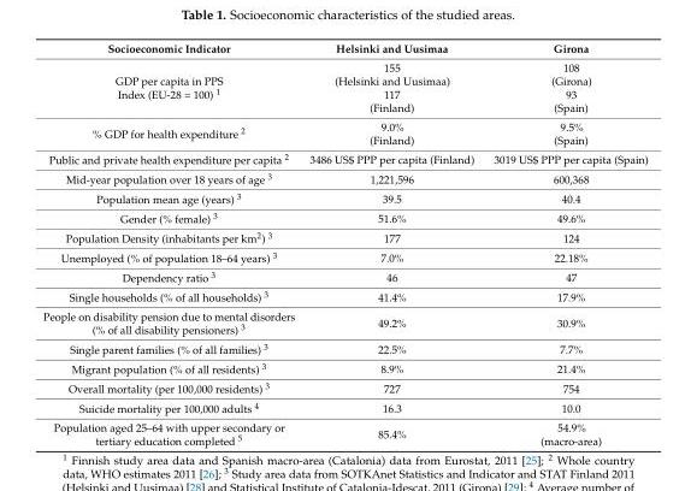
<table><thead><tr><td>Socioeconomic Indicator</td><td>Helsinki and Uusimaa</td><td>Girona</td></tr></thead><tbody><tr><td>GDP per capita in PPS Index (EU-28 = 100) <sup>1</sup></td><td>155 (Helsinki and Uusimaa) 117 (Finland)</td><td>108 (Girona) 93 (Spain)</td></tr><tr><td>% GDP for health expenditure <sup>2</sup></td><td>9.0% (Finland)</td><td>9.5% (Spain)</td></tr><tr><td>Public and private health expenditure per capita <sup>2</sup></td><td>3486 US$ PPP per capita (Finland)</td><td>3019 US$ PPP per capita (Spain)</td></tr><tr><td>Mid-year population over 18 years of age <sup>3</sup></td><td>1,221,596</td><td>600,368</td></tr><tr><td>Population mean age (years) <sup>3</sup></td><td>39.5</td><td>40.4</td></tr><tr><td>Gender (% female) <sup>3</sup></td><td>51.6%</td><td>49.6%</td></tr><tr><td>Population Density (inhabitants per km<sup>2</sup>) <sup>3</sup></td><td>177</td><td>124</td></tr><tr><td>Unemployed (% of population 18–64 years) <sup>3</sup></td><td>7.0%</td><td>22.18%</td></tr><tr><td>Dependency ratio <sup>3</sup></td><td>46</td><td>47</td></tr><tr><td>Single households (% of all households) <sup>3</sup></td><td>41.4%</td><td>17.9%</td></tr><tr><td>People on disability pension due to mental disorders (% of all disability pensioners) <sup>3</sup></td><td>49.2%</td><td>30.9%</td></tr><tr><td>Single parent families (% of all families) <sup>3</sup></td><td>22.5%</td><td>7.7%</td></tr><tr><td>Migrant population (% of all residents) <sup>3</sup></td><td>8.9%</td><td>21.4%</td></tr><tr><td>Overall mortality (per 100,000 residents) <sup>3</sup></td><td>727</td><td>754</td></tr><tr><td>Suicide mortality per 100,000 adults <sup>4</sup></td><td>16.3</td><td>10.0</td></tr><tr><td>Population aged 25–64 with upper secondary or tertiary education completed <sup>5</sup></td><td>85.4%</td><td>54.9% (macro-area)</td></tr></tbody></table>